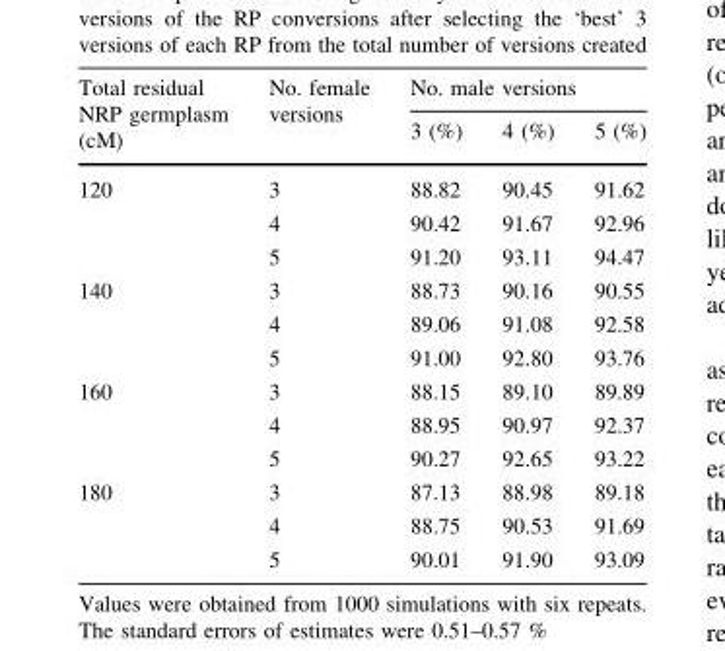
<table><thead><tr><td rowspan="2">Total residual NRP germplasm (cM)</td><td rowspan="2">No. female versions</td><td colspan="3">No. male versions</td></tr><tr><td>3 (%)</td><td>4 (%)</td><td>5 (%)</td></tr></thead><tbody><tr><td rowspan="3">120</td><td>3</td><td>88.82</td><td>90.45</td><td>91.62</td></tr><tr><td>4</td><td>90.42</td><td>91.67</td><td>92.96</td></tr><tr><td>5</td><td>91.20</td><td>93.11</td><td>94.47</td></tr><tr><td rowspan="3">140</td><td>3</td><td>88.73</td><td>90.16</td><td>90.55</td></tr><tr><td>4</td><td>89.06</td><td>91.08</td><td>92.58</td></tr><tr><td>5</td><td>91.00</td><td>92.80</td><td>93.76</td></tr><tr><td rowspan="3">160</td><td>3</td><td>88.15</td><td>89.10</td><td>89.89</td></tr><tr><td>4</td><td>88.95</td><td>90.97</td><td>92.37</td></tr><tr><td>5</td><td>90.27</td><td>92.65</td><td>93.22</td></tr><tr><td rowspan="3">180</td><td>3</td><td>87.13</td><td>88.98</td><td>89.18</td></tr><tr><td>4</td><td>88.75</td><td>90.53</td><td>91.69</td></tr><tr><td>5</td><td>90.01</td><td>91.90</td><td>93.09</td></tr></tbody></table>